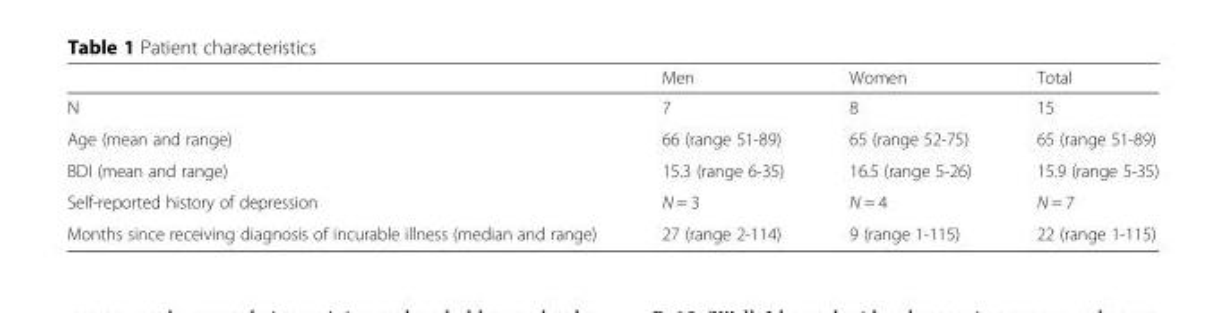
<table><thead><tr><td></td><td>Men</td><td>Women</td><td>Total</td></tr></thead><tbody><tr><td>N</td><td>7</td><td>8</td><td>15</td></tr><tr><td>Age (mean and range)</td><td>66 (range 51-89)</td><td>65 (range 52-75)</td><td>65 (range 51-89)</td></tr><tr><td>BDI (mean and range)</td><td>15.3 (range 6-35)</td><td>16.5 (range 5-26)</td><td>15.9 (range 5-35)</td></tr><tr><td>Self-reported history of depression</td><td>N = 3</td><td>N = 4</td><td>N = 7</td></tr><tr><td>Months since receiving diagnosis of incurable illness (median and range)</td><td>27 (range 2-114)</td><td>9 (range 1-115)</td><td>22 (range 1-115)</td></tr></tbody></table>